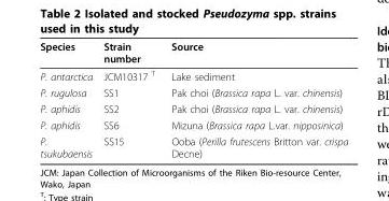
<table><thead><tr><td>Species</td><td>Strain number</td><td>Source</td></tr></thead><tbody><tr><td>P. antarctica</td><td>JCM10317 <sup>T</sup></td><td>Lake sediment</td></tr><tr><td>P. rugulosa</td><td>SS1</td><td>Pak choi (Brassica rapa L. var. chinensis)</td></tr><tr><td>P. aphidis</td><td>SS2</td><td>Pak choi (Brassica rapa L. var. chinensis)</td></tr><tr><td>P. aphidis</td><td>SS6</td><td>Mizuna (Brassica rapa L.var. nipposinica)</td></tr><tr><td>P. tsukubaensis</td><td>SS15</td><td>Ooba (Perilla frutescens Britton var. crispa Decne)</td></tr></tbody></table>